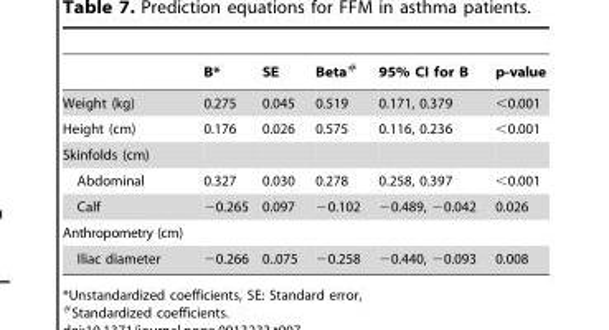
<table><thead><tr><td></td><td>B*</td><td>SE</td><td>Beta#</td><td>95% CI for B</td><td>p-value</td></tr></thead><tbody><tr><td>Weight (kg)</td><td>0.275</td><td>0.045</td><td>0.519</td><td>0.171, 0.379</td><td>&lt;0.001</td></tr><tr><td>Height (cm)</td><td>0.176</td><td>0.026</td><td>0.575</td><td>0.116, 0.236</td><td>&lt;0.001</td></tr><tr><td colspan="6">Skinfolds (cm)</td></tr><tr><td>Abdominal</td><td>0.327</td><td>0.030</td><td>0.278</td><td>0.258, 0.397</td><td>&lt;0.001</td></tr><tr><td>Calf</td><td>−0.265</td><td>0.097</td><td>−0.102</td><td>−0.489, −0.042</td><td>0.026</td></tr><tr><td colspan="6">Anthropometry (cm)</td></tr><tr><td>Iliac diameter</td><td>−0.266</td><td>0..075</td><td>−0.258</td><td>−0.440, −0.093</td><td>0.008</td></tr></tbody></table>